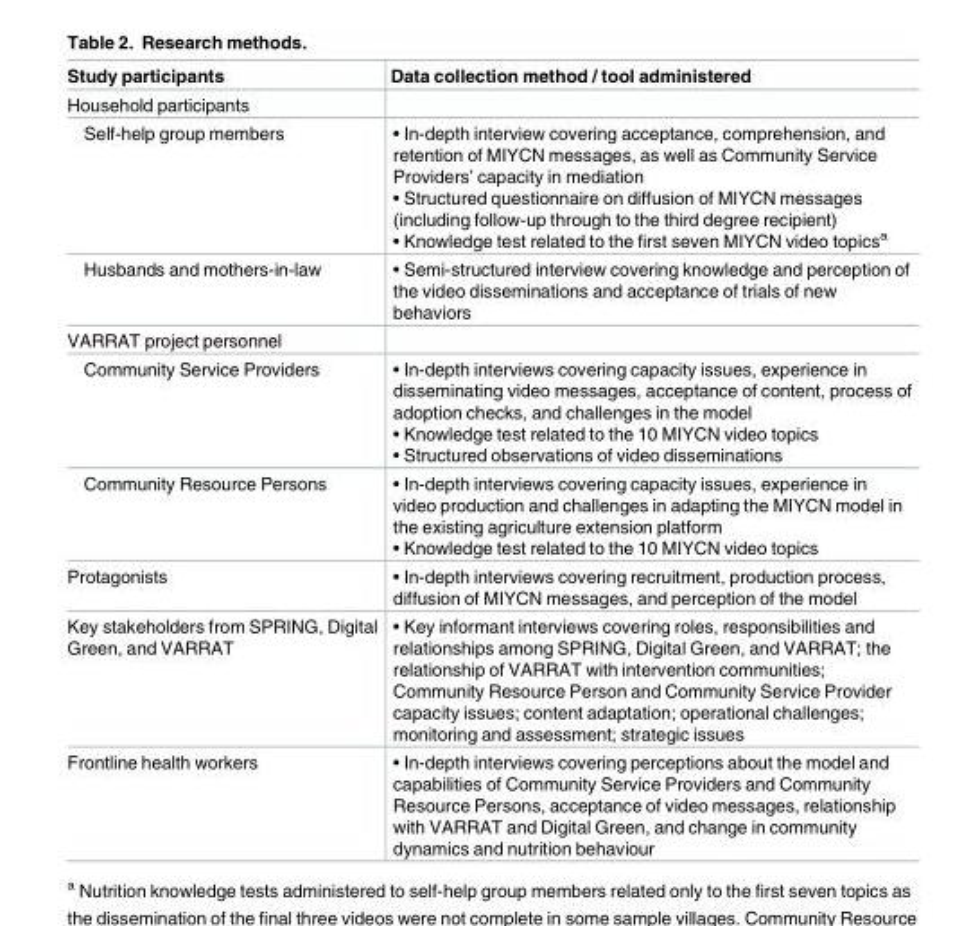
<table><thead><tr><td>Study participants</td><td>Data collection method / tool administered</td></tr></thead><tbody><tr><td colspan="2">Household participants</td></tr><tr><td>Self-help group members</td><td>• In-depth interview covering acceptance, comprehension, and retention of MIYCN messages, as well as Community Service Providers’ capacity in mediation • Structured questionnaire on diffusion of MIYCN messages (including follow-up through to the third degree recipient) • Knowledge test related to the first seven MIYCN video topics<sup>a</sup></td></tr><tr><td>Husbands and mothers-in-law</td><td>• Semi-structured interview covering knowledge and perception of the video disseminations and acceptance of trials of new behaviors</td></tr><tr><td colspan="2">VARRAT project personnel</td></tr><tr><td>Community Service Providers</td><td>• In-depth interviews covering capacity issues, experience in disseminating video messages, acceptance of content, process of adoption checks, and challenges in the model • Knowledge test related to the 10 MIYCN video topics • Structured observations of video disseminations</td></tr><tr><td>Community Resource Persons</td><td>• In-depth interviews covering capacity issues, experience in video production and challenges in adapting the MIYCN model in the existing agriculture extension platform • Knowledge test related to the 10 MIYCN video topics</td></tr><tr><td>Protagonists</td><td>• In-depth interviews covering recruitment, production process, diffusion of MIYCN messages, and perception of the model</td></tr><tr><td>Key stakeholders from SPRING, Digital Green, and VARRAT</td><td>• Key informant interviews covering roles, responsibilities and relationships among SPRING, Digital Green, and VARRAT; the relationship of VARRAT with intervention communities; Community Resource Person and Community Service Provider capacity issues; content adaptation; operational challenges; monitoring and assessment; strategic issues</td></tr><tr><td>Frontline health workers</td><td>• In-depth interviews covering perceptions about the model and capabilities of Community Service Providers and Community Resource Persons, acceptance of video messages, relationship with VARRAT and Digital Green, and change in community dynamics and nutrition behaviour</td></tr></tbody></table>